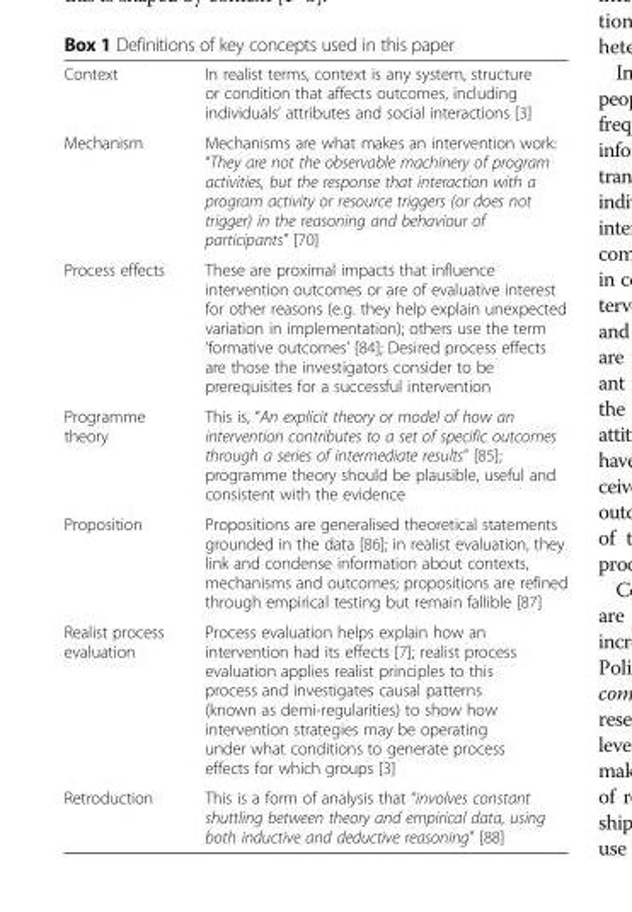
<table><tbody><tr><td>Context</td><td>In realist terms, context is any system, structure or condition that affects outcomes, including individuals’ attributes and social interactions [3]</td></tr><tr><td>Mechanism</td><td>Mechanisms are what makes an intervention work: “They are not the observable machinery of program activities, but the response that interaction with a program activity or resource triggers (or does not trigger) in the reasoning and behaviour of participants” [70]</td></tr><tr><td>Process effects</td><td>These are proximal impacts that influence intervention outcomes or are of evaluative interest for other reasons (e.g. they help explain unexpected variation in implementation); others use the term ‘formative outcomes’ [84]; Desired process effects are those the investigators consider to be prerequisites for a successful intervention</td></tr><tr><td>Programme theory</td><td>This is, “An explicit theory or model of how an intervention contributes to a set of specific outcomes through a series of intermediate results” [85]; programme theory should be plausible, useful and consistent with the evidence</td></tr><tr><td>Proposition</td><td>Propositions are generalised theoretical statements grounded in the data [86]; in realist evaluation, they link and condense information about contexts, mechanisms and outcomes; propositions are refined through empirical testing but remain fallible [87]</td></tr><tr><td>Realist process evaluation</td><td>Process evaluation helps explain how an intervention had its effects [7]; realist process evaluation applies realist principles to this process and investigates causal patterns (known as demi-regularities) to show how intervention strategies may be operating under what conditions to generate process effects for which groups [3]</td></tr><tr><td>Retroduction</td><td>This is a form of analysis that “involves constant shuttling between theory and empirical data, using both inductive and deductive reasoning” [88]</td></tr></tbody></table>